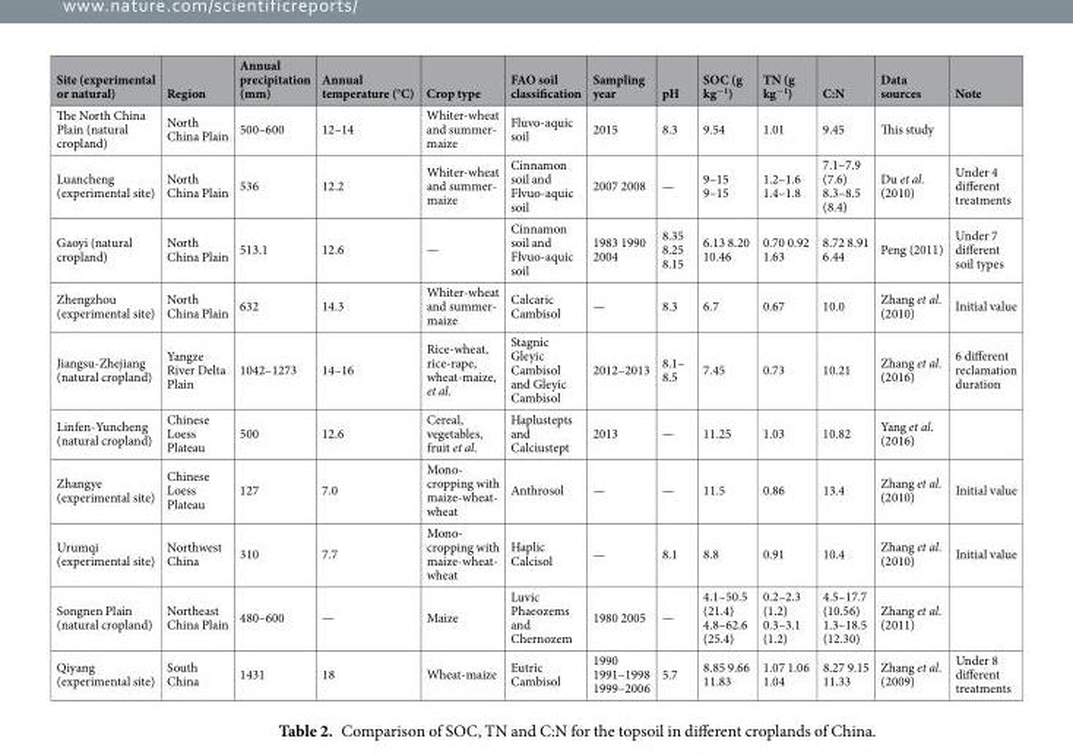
<table><thead><tr><td>Site (experimental or natural)</td><td>Region</td><td>Annual precipitation (mm)</td><td>Annual temperature (°C)</td><td>Crop type</td><td>FAO soil classification</td><td>Sampling year</td><td>pH</td><td>SOC (g kg<sup>−1</sup>)</td><td>TN (g kg<sup>−1</sup>)</td><td>C:N</td><td>Data sources</td><td>Note</td></tr></thead><tbody><tr><td>The North China Plain (natural cropland)</td><td>North China Plain</td><td>500–600</td><td>12–14</td><td>Whiter-wheat and summer- maize</td><td>Fluvo-aquic soil</td><td>2015</td><td>8.3</td><td>9.54</td><td>1.01</td><td>9.45</td><td>This study</td><td></td></tr><tr><td>Luancheng (experimental site)</td><td>North China Plain</td><td>536</td><td>12.2</td><td>Whiter-wheat and summer- maize</td><td>Cinnamon soil and Flvuo-aquic soil</td><td>2007 2008</td><td>—</td><td>9–15 9–15</td><td>1.2–1.6 1.4–1.8</td><td>7.1–7.9 (7.6) 8.3–8.5 (8.4)</td><td>Du et al. (2010)</td><td>Under 4 different treatments</td></tr><tr><td>Gaoyi (natural cropland)</td><td>North China Plain</td><td>513.1</td><td>12.6</td><td>—</td><td>Cinnamon soil and Flvuo-aquic soil</td><td>1983 1990 2004</td><td>8.35 8.25 8.15</td><td>6.13 8.20 10.46</td><td>0.70 0.92 1.63</td><td>8.72 8.91 6.44</td><td>Peng (2011)</td><td>Under 7 different soil types</td></tr><tr><td>Zhengzhou (experimental site)</td><td>North China Plain</td><td>632</td><td>14.3</td><td>Whiter-wheat and summer- maize</td><td>Calcaric Cambisol</td><td>—</td><td>8.3</td><td>6.7</td><td>0.67</td><td>10.0</td><td>Zhang et al. (2010)</td><td>Initial value</td></tr><tr><td>Jiangsu-Zhejiang (natural cropland)</td><td>Yangze River Delta Plain</td><td>1042–1273</td><td>14–16</td><td>Rice-wheat, rice-rape, wheat-maize, et al.</td><td>Stagnic Gleyic Cambisol and Gleyic Cambisol</td><td>2012–2013</td><td>8.1– 8.5</td><td>7.45</td><td>0.73</td><td>10.21</td><td>Zhang et al. (2016)</td><td>6 different reclamation duration</td></tr><tr><td>Linfen-Yuncheng (natural cropland)</td><td>Chinese Loess Plateau</td><td>500</td><td>12.6</td><td>Cereal, vegetables, fruit et al.</td><td>Haplustepts and Calciustept</td><td>2013</td><td>—</td><td>11.25</td><td>1.03</td><td>10.82</td><td>Yang et al. (2016)</td><td></td></tr><tr><td>Zhangye (experimental site)</td><td>Chinese Loess Plateau</td><td>127</td><td>7.0</td><td>Mono- cropping with maize-wheat- wheat</td><td>Anthrosol</td><td>—</td><td>—</td><td>11.5</td><td>0.86</td><td>13.4</td><td>Zhang et al. (2010)</td><td>Initial value</td></tr><tr><td>Urumqi (experimental site)</td><td>Northwest China</td><td>310</td><td>7.7</td><td>Mono- cropping with maize-wheat- wheat</td><td>Haplic Calcisol</td><td>—</td><td>8.1</td><td>8.8</td><td>0.91</td><td>10.4</td><td>Zhang et al. (2010)</td><td>Initial value</td></tr><tr><td>Songnen Plain (natural cropland)</td><td>Northeast China Plain</td><td>480–600</td><td>—</td><td>Maize</td><td>Luvic Phaeozems and Chernozem</td><td>1980 2005</td><td>—</td><td>4.1–50.5 (21.4) 4.8–62.6 (25.4)</td><td>0.2–2.3 (1.2) 0.3–3.1 (1.2)</td><td>4.5–17.7 (10.56) 1.3–18.5 (12.30)</td><td>Zhang et al. (2011)</td><td></td></tr><tr><td>Qiyang (experimental site)</td><td>South China</td><td>1431</td><td>18</td><td>Wheat-maize</td><td>Eutric Cambisol</td><td>1990 1991–1998 1999–2006</td><td>5.7</td><td>8.85 9.66 11.83</td><td>1.07 1.06 1.04</td><td>8.27 9.15 11.33</td><td>Zhang et al. (2009)</td><td>Under 8 different treatments</td></tr></tbody></table>